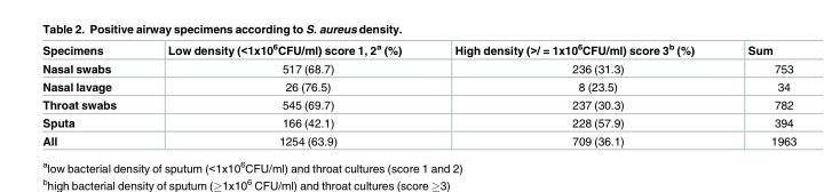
<table><thead><tr><td>Specimens</td><td>Low density (&lt;1x10<sup>6</sup>CFU/ml) score 1, 2<sup>a</sup> (%)</td><td>High density (&gt;/ = 1x10<sup>6</sup>CFU/ml) score 3<sup>b</sup> (%)</td><td>Sum</td></tr></thead><tbody><tr><td>Nasal swabs</td><td>517 (68.7)</td><td>236 (31.3)</td><td>753</td></tr><tr><td>Nasal lavage</td><td>26 (76.5)</td><td>8 (23.5)</td><td>34</td></tr><tr><td>Throat swabs</td><td>545 (69.7)</td><td>237 (30.3)</td><td>782</td></tr><tr><td>Sputa</td><td>166 (42.1)</td><td>228 (57.9)</td><td>394</td></tr><tr><td>All</td><td>1254 (63.9)</td><td>709 (36.1)</td><td>1963</td></tr></tbody></table>